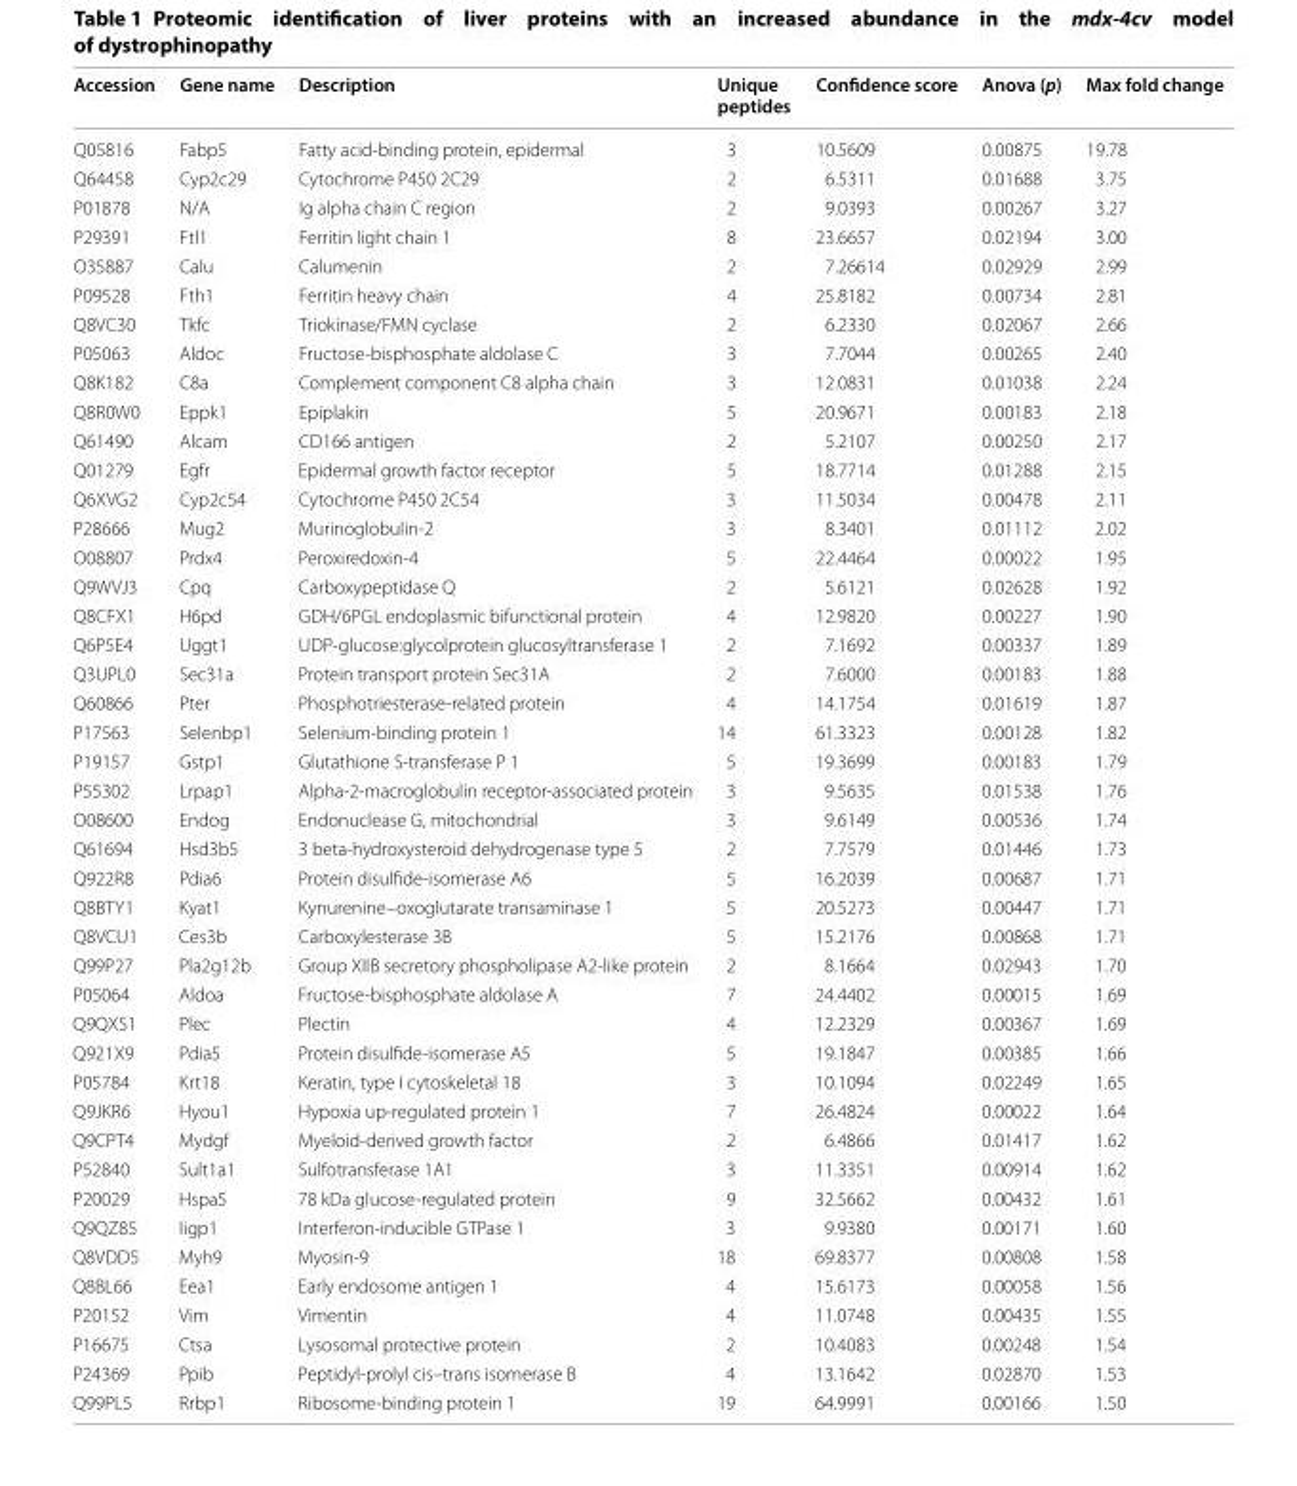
<table><thead><tr><td>Accession</td><td>Gene name</td><td>Description</td><td>Unique peptides</td><td>Confidence score</td><td>Anova (p)</td><td>Max fold change</td></tr></thead><tbody><tr><td>Q05816</td><td>Fabp5</td><td>Fatty acid-binding protein, epidermal</td><td>3</td><td>10.5609</td><td>0.00875</td><td>19.78</td></tr><tr><td>Q64458</td><td>Cyp2c29</td><td>Cytochrome P450 2C29</td><td>2</td><td>6.5311</td><td>0.01688</td><td>3.75</td></tr><tr><td>P01878</td><td>N/A</td><td>Ig alpha chain C region</td><td>2</td><td>9.0393</td><td>0.00267</td><td>3.27</td></tr><tr><td>P29391</td><td>Ftl1</td><td>Ferritin light chain 1</td><td>8</td><td>23.6657</td><td>0.02194</td><td>3.00</td></tr><tr><td>O35887</td><td>Calu</td><td>Calumenin</td><td>2</td><td>7.26614</td><td>0.02929</td><td>2.99</td></tr><tr><td>P09528</td><td>Fth1</td><td>Ferritin heavy chain</td><td>4</td><td>25.8182</td><td>0.00734</td><td>2.81</td></tr><tr><td>Q8VC30</td><td>Tkfc</td><td>Triokinase/FMN cyclase</td><td>2</td><td>6.2330</td><td>0.02067</td><td>2.66</td></tr><tr><td>P05063</td><td>Aldoc</td><td>Fructose-bisphosphate aldolase C</td><td>3</td><td>7.7044</td><td>0.00265</td><td>2.40</td></tr><tr><td>Q8K182</td><td>C8a</td><td>Complement component C8 alpha chain</td><td>3</td><td>12.0831</td><td>0.01038</td><td>2.24</td></tr><tr><td>Q8R0W0</td><td>Eppk1</td><td>Epiplakin</td><td>5</td><td>20.9671</td><td>0.00183</td><td>2.18</td></tr><tr><td>Q61490</td><td>Alcam</td><td>CD166 antigen</td><td>2</td><td>5.2107</td><td>0.00250</td><td>2.17</td></tr><tr><td>Q01279</td><td>Egfr</td><td>Epidermal growth factor receptor</td><td>5</td><td>18.7714</td><td>0.01288</td><td>2.15</td></tr><tr><td>Q6XVG2</td><td>Cyp2c54</td><td>Cytochrome P450 2C54</td><td>3</td><td>11.5034</td><td>0.00478</td><td>2.11</td></tr><tr><td>P28666</td><td>Mug2</td><td>Murinoglobulin-2</td><td>3</td><td>8.3401</td><td>0.01112</td><td>2.02</td></tr><tr><td>O08807</td><td>Prdx4</td><td>Peroxiredoxin-4</td><td>5</td><td>22.4464</td><td>0.00022</td><td>1.95</td></tr><tr><td>Q9WVJ3</td><td>Cpq</td><td>Carboxypeptidase Q</td><td>2</td><td>5.6121</td><td>0.02628</td><td>1.92</td></tr><tr><td>Q8CFX1</td><td>H6pd</td><td>GDH/6PGL endoplasmic bifunctional protein</td><td>4</td><td>12.9820</td><td>0.00227</td><td>1.90</td></tr><tr><td>Q6P5E4</td><td>Uggt1</td><td>UDP-glucose:glycolprotein glucosyltransferase 1</td><td>2</td><td>7.1692</td><td>0.00337</td><td>1.89</td></tr><tr><td>Q3UPL0</td><td>Sec31a</td><td>Protein transport protein Sec31A</td><td>2</td><td>7.6000</td><td>0.00183</td><td>1.88</td></tr><tr><td>Q60866</td><td>Pter</td><td>Phosphotriesterase-related protein</td><td>4</td><td>14.1754</td><td>0.01619</td><td>1.87</td></tr><tr><td>P17563</td><td>Selenbp1</td><td>Selenium-binding protein 1</td><td>14</td><td>61.3323</td><td>0.00128</td><td>1.82</td></tr><tr><td>P19157</td><td>Gstp1</td><td>Glutathione S-transferase P 1</td><td>5</td><td>19.3699</td><td>0.00183</td><td>1.79</td></tr><tr><td>P55302</td><td>Lrpap1</td><td>Alpha-2-macroglobulin receptor-associated protein</td><td>3</td><td>9.5635</td><td>0.01538</td><td>1.76</td></tr><tr><td>O08600</td><td>Endog</td><td>Endonuclease G, mitochondrial</td><td>3</td><td>9.6149</td><td>0.00536</td><td>1.74</td></tr><tr><td>Q61694</td><td>Hsd3b5</td><td>3 beta-hydroxysteroid dehydrogenase type 5</td><td>2</td><td>7.7579</td><td>0.01446</td><td>1.73</td></tr><tr><td>Q922R8</td><td>Pdia6</td><td>Protein disulfide-isomerase A6</td><td>5</td><td>16.2039</td><td>0.00687</td><td>1.71</td></tr><tr><td>Q8BTY1</td><td>Kyat1</td><td>Kynurenine–oxoglutarate transaminase 1</td><td>5</td><td>20.5273</td><td>0.00447</td><td>1.71</td></tr><tr><td>Q8VCU1</td><td>Ces3b</td><td>Carboxylesterase 3B</td><td>5</td><td>15.2176</td><td>0.00868</td><td>1.71</td></tr><tr><td>Q99P27</td><td>Pla2g12b</td><td>Group XIIB secretory phospholipase A2-like protein</td><td>2</td><td>8.1664</td><td>0.02943</td><td>1.70</td></tr><tr><td>P05064</td><td>Aldoa</td><td>Fructose-bisphosphate aldolase A</td><td>7</td><td>24.4402</td><td>0.00015</td><td>1.69</td></tr><tr><td>Q9QXS1</td><td>Plec</td><td>Plectin</td><td>4</td><td>12.2329</td><td>0.00367</td><td>1.69</td></tr><tr><td>Q921X9</td><td>Pdia5</td><td>Protein disulfide-isomerase A5</td><td>5</td><td>19.1847</td><td>0.00385</td><td>1.66</td></tr><tr><td>P05784</td><td>Krt18</td><td>Keratin, type I cytoskeletal 18</td><td>3</td><td>10.1094</td><td>0.02249</td><td>1.65</td></tr><tr><td>Q9JKR6</td><td>Hyou1</td><td>Hypoxia up-regulated protein 1</td><td>7</td><td>26.4824</td><td>0.00022</td><td>1.64</td></tr><tr><td>Q9CPT4</td><td>Mydgf</td><td>Myeloid-derived growth factor</td><td>2</td><td>6.4866</td><td>0.01417</td><td>1.62</td></tr><tr><td>P52840</td><td>Sult1a1</td><td>Sulfotransferase 1A1</td><td>3</td><td>11.3351</td><td>0.00914</td><td>1.62</td></tr><tr><td>P20029</td><td>Hspa5</td><td>78 kDa glucose-regulated protein</td><td>9</td><td>32.5662</td><td>0.00432</td><td>1.61</td></tr><tr><td>Q9QZ85</td><td>Iigp1</td><td>Interferon-inducible GTPase 1</td><td>3</td><td>9.9380</td><td>0.00171</td><td>1.60</td></tr><tr><td>Q8VDD5</td><td>Myh9</td><td>Myosin-9</td><td>18</td><td>69.8377</td><td>0.00808</td><td>1.58</td></tr><tr><td>Q8BL66</td><td>Eea1</td><td>Early endosome antigen 1</td><td>4</td><td>15.6173</td><td>0.00058</td><td>1.56</td></tr><tr><td>P20152</td><td>Vim</td><td>Vimentin</td><td>4</td><td>11.0748</td><td>0.00435</td><td>1.55</td></tr><tr><td>P16675</td><td>Ctsa</td><td>Lysosomal protective protein</td><td>2</td><td>10.4083</td><td>0.00248</td><td>1.54</td></tr><tr><td>P24369</td><td>Ppib</td><td>Peptidyl-prolyl cis–trans isomerase B</td><td>4</td><td>13.1642</td><td>0.02870</td><td>1.53</td></tr><tr><td>Q99PL5</td><td>Rrbp1</td><td>Ribosome-binding protein 1</td><td>19</td><td>64.9991</td><td>0.00166</td><td>1.50</td></tr></tbody></table>